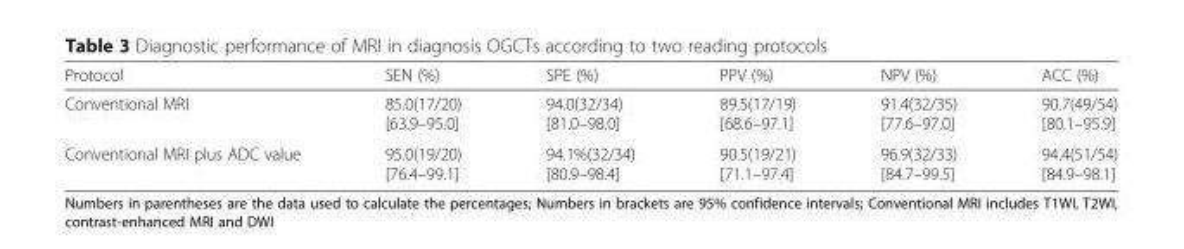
<table><thead><tr><td>Protocol</td><td>SEN (%)</td><td>SPE (%)</td><td>PPV (%)</td><td>NPV (%)</td><td>ACC (%)</td></tr></thead><tbody><tr><td>Conventional MRI</td><td>85.0(17/20) [63.9–95.0]</td><td>94.0(32/34) [81.0–98.0]</td><td>89.5(17/19) [68.6–97.1]</td><td>91.4(32/35) [77.6–97.0]</td><td>90.7(49/54) [80.1–95.9]</td></tr><tr><td>Conventional MRI plus ADC value</td><td>95.0(19/20) [76.4–99.1]</td><td>94.1%(32/34) [80.9–98.4]</td><td>90.5(19/21) [71.1–97.4]</td><td>96.9(32/33) [84.7–99.5]</td><td>94.4(51/54) [84.9–98.1]</td></tr></tbody></table>